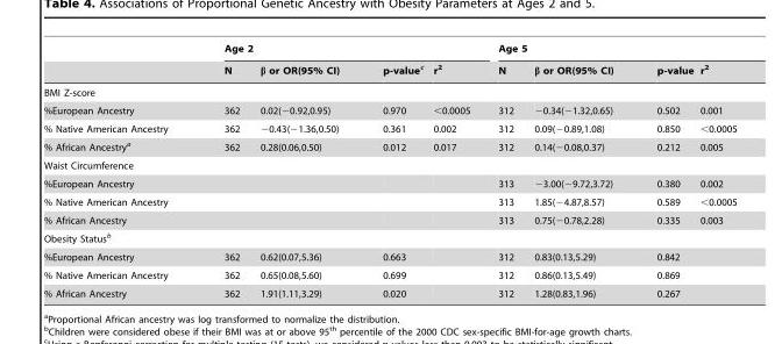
<table><thead><tr><td rowspan="2"></td><td colspan="4">Age 2</td><td colspan="4">Age 5</td></tr><tr><td>N</td><td>β or OR(95% CI)</td><td>p-value<sup>c</sup></td><td>r<sup>2</sup></td><td>N</td><td>β or OR(95% CI)</td><td>p-value</td><td>r<sup>2</sup></td></tr></thead><tbody><tr><td colspan="9">BMI Z-score</td></tr><tr><td>%European Ancestry</td><td>362</td><td>0.02(−0.92,0.95)</td><td>0.970</td><td>&lt;0.0005</td><td>312</td><td>−0.34(−1.32,0.65)</td><td>0.502</td><td>0.001</td></tr><tr><td>% Native American Ancestry</td><td>362</td><td>−0.43(−1.36,0.50)</td><td>0.361</td><td>0.002</td><td>312</td><td>0.09(−0.89,1.08)</td><td>0.850</td><td>&lt;0.0005</td></tr><tr><td>% African Ancestry<sup>a</sup></td><td>362</td><td>0.28(0.06,0.50)</td><td>0.012</td><td>0.017</td><td>312</td><td>0.14(−0.08,0.37)</td><td>0.212</td><td>0.005</td></tr><tr><td colspan="9">Waist Circumference</td></tr><tr><td>%European Ancestry</td><td></td><td></td><td></td><td></td><td>313</td><td>−3.00(−9.72,3.72)</td><td>0.380</td><td>0.002</td></tr><tr><td>% Native American Ancestry</td><td></td><td></td><td></td><td></td><td>313</td><td>1.85(−4.87,8.57)</td><td>0.589</td><td>&lt;0.0005</td></tr><tr><td>% African Ancestry</td><td></td><td></td><td></td><td></td><td>313</td><td>0.75(−0.78,2.28)</td><td>0.335</td><td>0.003</td></tr><tr><td colspan="9">Obesity Status<sup>b</sup></td></tr><tr><td>%European Ancestry</td><td>362</td><td>0.62(0.07,5.36)</td><td>0.663</td><td></td><td>312</td><td>0.83(0.13,5.29)</td><td>0.842</td><td></td></tr><tr><td>% Native American Ancestry</td><td>362</td><td>0.65(0.08,5.60)</td><td>0.699</td><td></td><td>312</td><td>0.86(0.13,5.49)</td><td>0.869</td><td></td></tr><tr><td>% African Ancestry</td><td>362</td><td>1.91(1.11,3.29)</td><td>0.020</td><td></td><td>312</td><td>1.28(0.83,1.96)</td><td>0.267</td><td></td></tr></tbody></table>